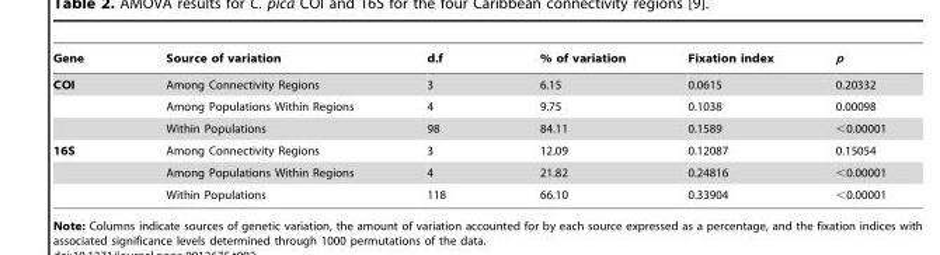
<table><thead><tr><td>Gene</td><td>Source of variation</td><td>d.f</td><td>% of variation</td><td>Fixation index</td><td>p</td></tr></thead><tbody><tr><td rowspan="3">COI</td><td>Among Connectivity Regions</td><td>3</td><td>6.15</td><td>0.0615</td><td>0.20332</td></tr><tr><td>Among Populations Within Regions</td><td>4</td><td>9.75</td><td>0.1038</td><td>0.00098</td></tr><tr><td>Within Populations</td><td>98</td><td>84.11</td><td>0.1589</td><td>&lt;0.00001</td></tr><tr><td rowspan="3">16S</td><td>Among Connectivity Regions</td><td>3</td><td>12.09</td><td>0.12087</td><td>0.15054</td></tr><tr><td>Among Populations Within Regions</td><td>4</td><td>21.82</td><td>0.24816</td><td>&lt;0.00001</td></tr><tr><td>Within Populations</td><td>118</td><td>66.10</td><td>0.33904</td><td>&lt;0.00001</td></tr></tbody></table>